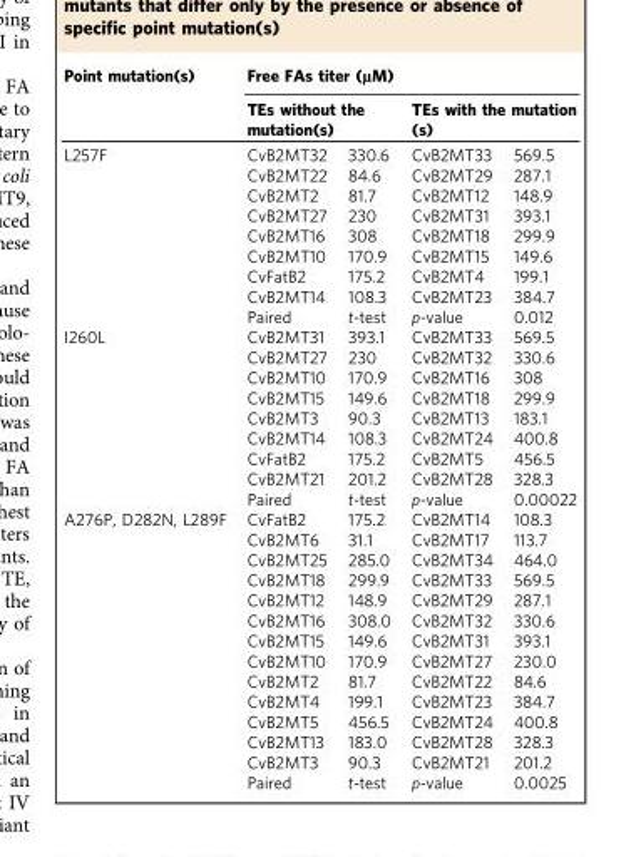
<table><thead><tr><td rowspan="3">Point mutation(s) L257F</td><td colspan="4">Free FAs titer (µM)</td></tr><tr><td colspan="2">TEs without the mutation(s)</td><td colspan="2">TEs with the mutation (s)</td></tr><tr><td>CvB2MT32</td><td>330.6</td><td>CvB2MT33</td><td>569.5</td></tr></thead><tbody><tr><td></td><td>CvB2MT22</td><td>84.6</td><td>CvB2MT29</td><td>287.1</td></tr><tr><td></td><td>CvB2MT2</td><td>81.7</td><td>CvB2MT12</td><td>148.9</td></tr><tr><td></td><td>CvB2MT27</td><td>230</td><td>CvB2MT31</td><td>393.1</td></tr><tr><td></td><td>CvB2MT16</td><td>308</td><td>CvB2MT18</td><td>299.9</td></tr><tr><td></td><td>CvB2MT10</td><td>170.9</td><td>CvB2MT15</td><td>149.6</td></tr><tr><td></td><td>CvFatB2</td><td>175.2</td><td>CvB2MT4</td><td>199.1</td></tr><tr><td></td><td>CvB2MT14</td><td>108.3</td><td>CvB2MT23</td><td>384.7</td></tr><tr><td></td><td>Paired</td><td>t-test</td><td>p-value</td><td>0.012</td></tr><tr><td rowspan="9">I260L</td><td>CvB2MT31</td><td>393.1</td><td>CvB2MT33</td><td>569.5</td></tr><tr><td>CvB2MT27</td><td>230</td><td>CvB2MT32</td><td>330.6</td></tr><tr><td>CvB2MT10</td><td>170.9</td><td>CvB2MT16</td><td>308</td></tr><tr><td>CvB2MT15</td><td>149.6</td><td>CvB2MT18</td><td>299.9</td></tr><tr><td>CvB2MT3</td><td>90.3</td><td>CvB2MT13</td><td>183.1</td></tr><tr><td>CvB2MT14</td><td>108.3</td><td>CvB2MT24</td><td>400.8</td></tr><tr><td>CvFatB2</td><td>175.2</td><td>CvB2MT5</td><td>456.5</td></tr><tr><td>CvB2MT21</td><td>201.2</td><td>CvB2MT28</td><td>328.3</td></tr><tr><td>Paired</td><td>t-test</td><td>p-value</td><td>0.00022</td></tr><tr><td rowspan="14">A276P, D282N, L289F</td><td>CvFatB2</td><td>175.2</td><td>CvB2MT14</td><td>108.3</td></tr><tr><td>CvB2MT6</td><td>31.1</td><td>CvB2MT17</td><td>113.7</td></tr><tr><td>CvB2MT25</td><td>285.0</td><td>CvB2MT34</td><td>464.0</td></tr><tr><td>CvB2MT18</td><td>299.9</td><td>CvB2MT33</td><td>569.5</td></tr><tr><td>CvB2MT12</td><td>148.9</td><td>CvB2MT29</td><td>287.1</td></tr><tr><td>CvB2MT16</td><td>308.0</td><td>CvB2MT32</td><td>330.6</td></tr><tr><td>CvB2MT15</td><td>149.6</td><td>CvB2MT31</td><td>393.1</td></tr><tr><td>CvB2MT10</td><td>170.9</td><td>CvB2MT27</td><td>230.0</td></tr><tr><td>CvB2MT2</td><td>81.7</td><td>CvB2MT22</td><td>84.6</td></tr><tr><td>CvB2MT4</td><td>199.1</td><td>CvB2MT23</td><td>384.7</td></tr><tr><td>CvB2MT5</td><td>456.5</td><td>CvB2MT24</td><td>400.8</td></tr><tr><td>CvB2MT13</td><td>183.0</td><td>CvB2MT28</td><td>328.3</td></tr><tr><td>CvB2MT3</td><td>90.3</td><td>CvB2MT21</td><td>201.2</td></tr><tr><td>Paired</td><td>t-test</td><td>p-value</td><td>0.0025</td></tr></tbody></table>